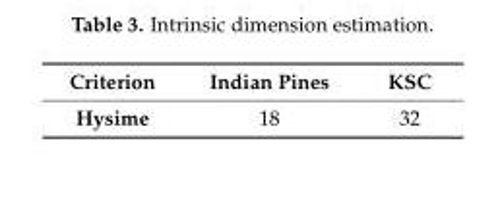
<table><thead><tr><td>Criterion</td><td>Indian Pines</td><td>KSC</td></tr></thead><tbody><tr><td>Hysime</td><td>18</td><td>32</td></tr></tbody></table>